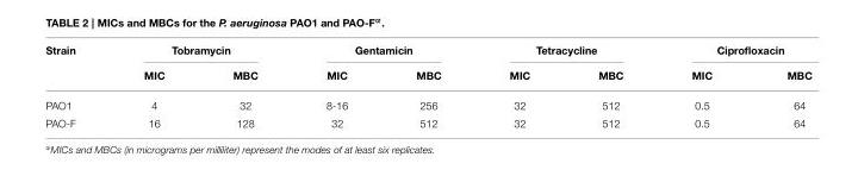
<table><thead><tr><td rowspan="2">Strain</td><td colspan="2">Tobramycin</td><td colspan="2">Gentamicin</td><td colspan="2">Tetracycline</td><td colspan="2">Ciprofloxacin</td></tr><tr><td>MIC</td><td>MBC</td><td>MIC</td><td>MBC</td><td>MIC</td><td>MBC</td><td>MIC</td><td>MBC</td></tr></thead><tbody><tr><td>PAO1</td><td>4</td><td>32</td><td>8-16</td><td>256</td><td>32</td><td>512</td><td>0.5</td><td>64</td></tr><tr><td>PAO-F</td><td>16</td><td>128</td><td>32</td><td>512</td><td>32</td><td>512</td><td>0.5</td><td>64</td></tr></tbody></table>